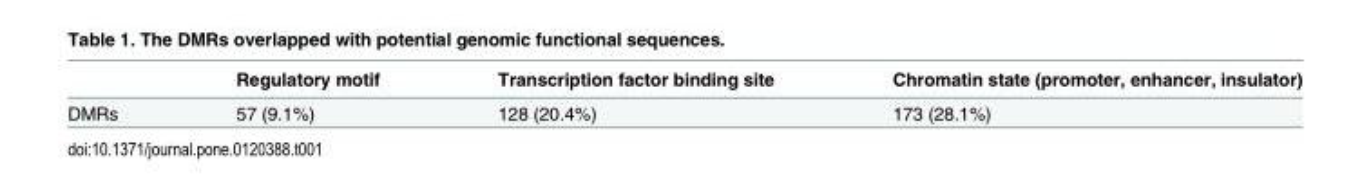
<table><thead><tr><td></td><td>Regulatory motif</td><td>Transcription factor binding site</td><td>Chromatin state (promoter, enhancer, insulator)</td></tr></thead><tbody><tr><td>DMRs</td><td>57 (9.1%)</td><td>128 (20.4%)</td><td>173 (28.1%)</td></tr></tbody></table>